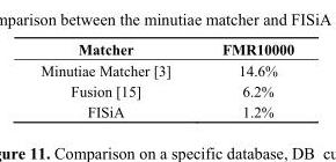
<table><thead><tr><td>Matcher</td><td>FMR10000</td></tr></thead><tbody><tr><td>Minutiae Matcher [3]</td><td>14.6%</td></tr><tr><td>Fusion [15]</td><td>6.2%</td></tr><tr><td>FISiA</td><td>1.2%</td></tr></tbody></table>